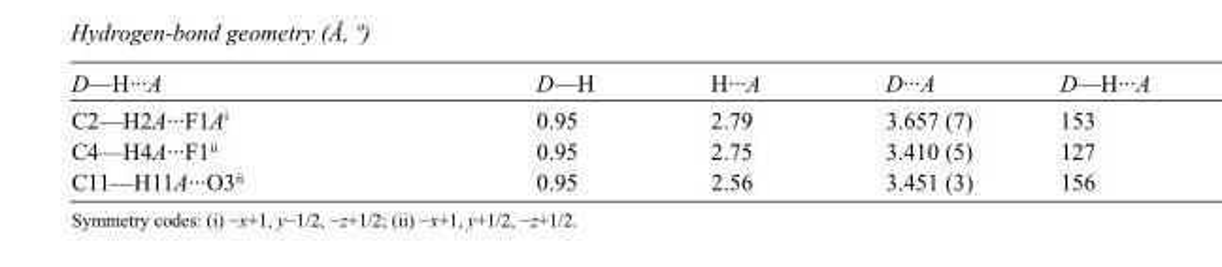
<table><tbody><tr><td>D—H···A</td><td>D—H</td><td>H···A</td><td>D···A</td><td>D—H···A</td></tr><tr><td>C2—H2A···F1A<sup>i</sup></td><td>0.95</td><td>2.79</td><td>3.657 (7)</td><td>153</td></tr><tr><td>C4—H4A···F1<sup>ii</sup></td><td>0.95</td><td>2.75</td><td>3.410 (5)</td><td>127</td></tr><tr><td>C11—H11A···O3<sup>ii</sup></td><td>0.95</td><td>2.56</td><td>3.451 (3)</td><td>156</td></tr></tbody></table>